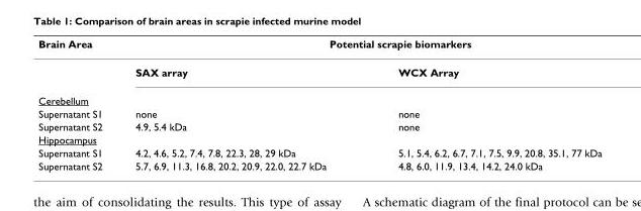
<table><thead><tr><td rowspan="2">Brain Area</td><td colspan="2">Potential scrapie biomarkers</td></tr><tr><td>SAX array</td><td>WCX Array</td></tr></thead><tbody><tr><td colspan="3">Cerebellum</td></tr><tr><td>Supernatant S1</td><td>none</td><td>none</td></tr><tr><td>Supernatant S2</td><td>4.9, 5.4 kDa</td><td>none</td></tr><tr><td colspan="3">Hippocampus</td></tr><tr><td>Supernatant S1</td><td>4.2, 4.6, 5.2, 7.4, 7.8, 22.3, 28, 29 kDa</td><td>5.1, 5.4, 6.2, 6.7, 7.1, 7.5, 9.9, 20.8, 35.1, 77 kDa</td></tr><tr><td>Supernatant S2</td><td>5.7, 6.9, 11.3, 16.8, 20.2, 20.9, 22.0, 22.7 kDa</td><td>4.8, 6.0, 11.9, 13.4, 14.2, 24.0 kDa</td></tr></tbody></table>